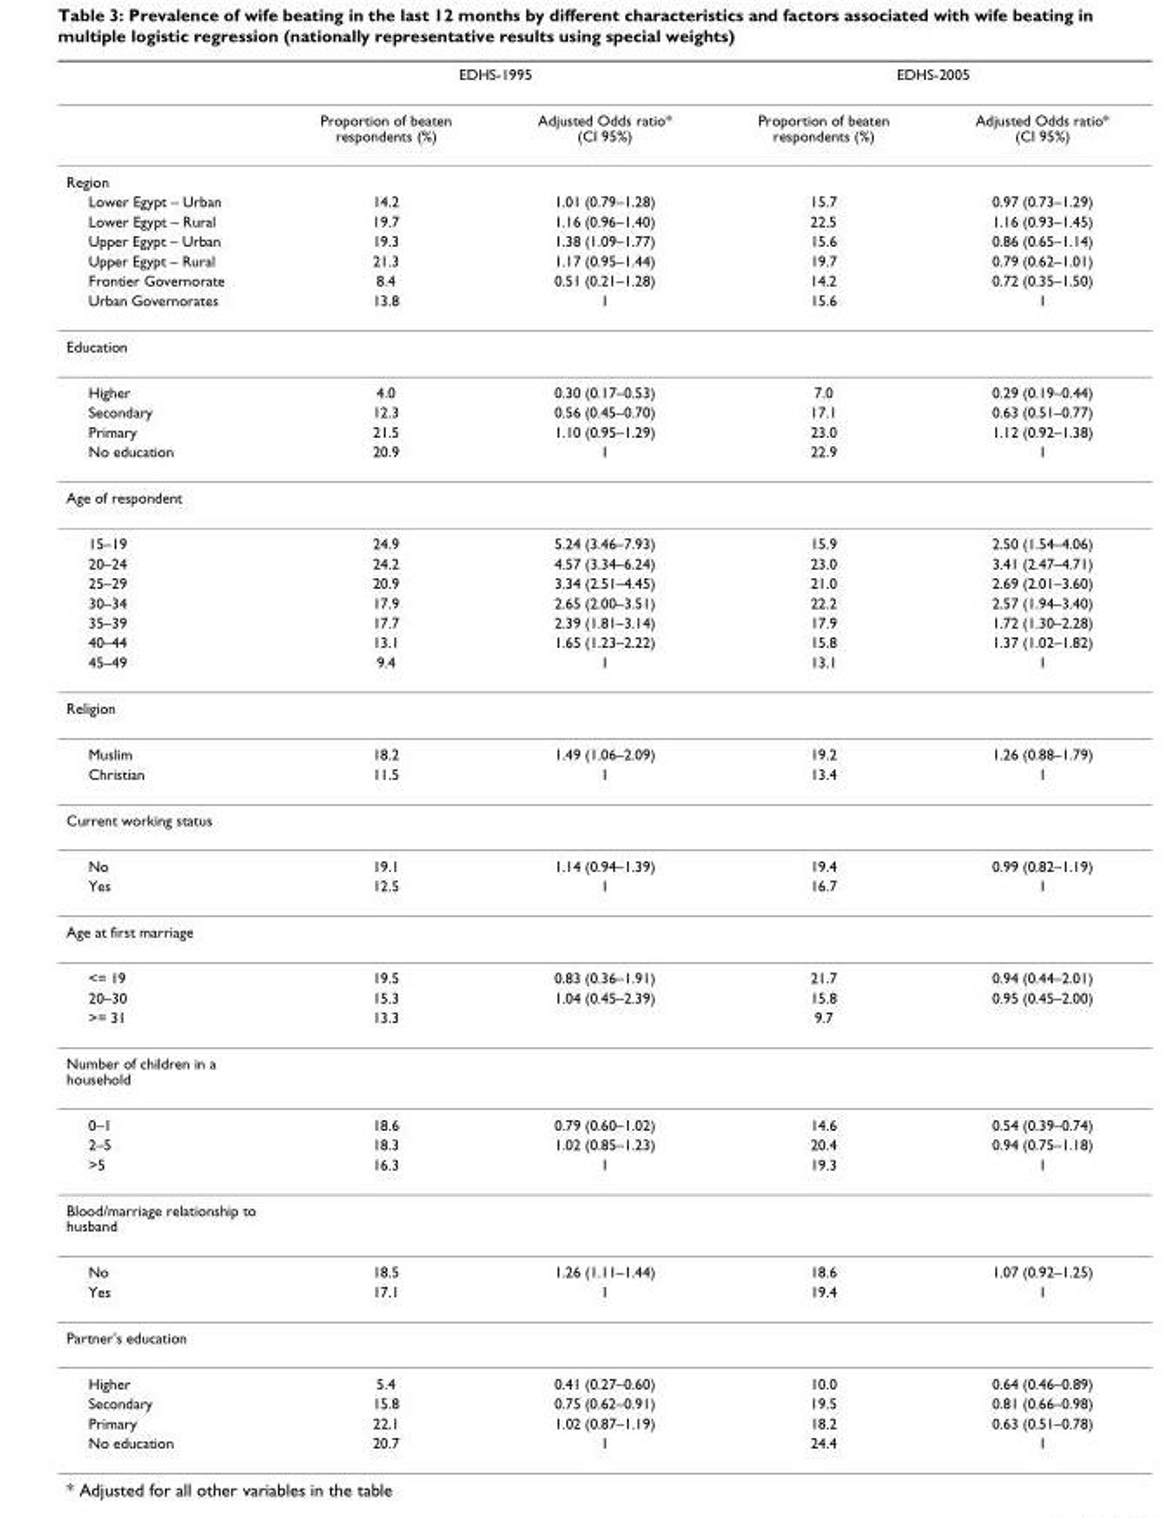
<table><thead><tr><td rowspan="2"></td><td colspan="2">EDHS-1995</td><td colspan="2">EDHS-2005</td></tr><tr><td>Proportion of beaten respondents (%)</td><td>Adjusted Odds ratio* (CI 95%)</td><td>Proportion of beaten respondents (%)</td><td>Adjusted Odds ratio* (CI 95%)</td></tr></thead><tbody><tr><td colspan="5">Region</td></tr><tr><td>Lower Egypt – Urban</td><td>14.2</td><td>1.01 (0.79–1.28)</td><td>15.7</td><td>0.97 (0.73–1.29)</td></tr><tr><td>Lower Egypt – Rural</td><td>19.7</td><td>1.16 (0.96–1.40)</td><td>22.5</td><td>1.16 (0.93–1.45)</td></tr><tr><td>Upper Egypt – Urban</td><td>19.3</td><td>1.38 (1.09–1.77)</td><td>15.6</td><td>0.86 (0.65–1.14)</td></tr><tr><td>Upper Egypt – Rural</td><td>21.3</td><td>1.17 (0.95–1.44)</td><td>19.7</td><td>0.79 (0.62–1.01)</td></tr><tr><td>Frontier Governorate</td><td>8.4</td><td>0.51 (0.21–1.28)</td><td>14.2</td><td>0.72 (0.35–1.50)</td></tr><tr><td>Urban Governorates</td><td>13.8</td><td>1</td><td>15.6</td><td>1</td></tr><tr><td colspan="5">Education</td></tr><tr><td>Higher</td><td>4.0</td><td>0.30 (0.17–0.53)</td><td>7.0</td><td>0.29 (0.19–0.44)</td></tr><tr><td>Secondary</td><td>12.3</td><td>0.56 (0.45–0.70)</td><td>17.1</td><td>0.63 (0.51–0.77)</td></tr><tr><td>Primary</td><td>21.5</td><td>1.10 (0.95–1.29)</td><td>23.0</td><td>1.12 (0.92–1.38)</td></tr><tr><td>No education</td><td>20.9</td><td>1</td><td>22.9</td><td>1</td></tr><tr><td colspan="5">Age of respondent</td></tr><tr><td>15–19</td><td>24.9</td><td>5.24 (3.46–7.93)</td><td>15.9</td><td>2.50 (1.54–4.06)</td></tr><tr><td>20–24</td><td>24.2</td><td>4.57 (3.34–6.24)</td><td>23.0</td><td>3.41 (2.47–4.71)</td></tr><tr><td>25–29</td><td>20.9</td><td>3.34 (2.51–4.45)</td><td>21.0</td><td>2.69 (2.01–3.60)</td></tr><tr><td>30–34</td><td>17.9</td><td>2.65 (2.00–3.51)</td><td>22.2</td><td>2.57 (1.94–3.40)</td></tr><tr><td>35–39</td><td>17.7</td><td>2.39 (1.81–3.14)</td><td>17.9</td><td>1.72 (1.30–2.28)</td></tr><tr><td>40–44</td><td>13.1</td><td>1.65 (1.23–2.22)</td><td>15.8</td><td>1.37 (1.02–1.82)</td></tr><tr><td>45–49</td><td>9.4</td><td>1</td><td>13.1</td><td>1</td></tr><tr><td colspan="5">Religion</td></tr><tr><td>Muslim</td><td>18.2</td><td>1.49 (1.06–2.09)</td><td>19.2</td><td>1.26 (0.88–1.79)</td></tr><tr><td>Christian</td><td>11.5</td><td>1</td><td>13.4</td><td>1</td></tr><tr><td colspan="5">Current working status</td></tr><tr><td>No</td><td>19.1</td><td>1.14 (0.94–1.39)</td><td>19.4</td><td>0.99 (0.82–1.19)</td></tr><tr><td>Yes</td><td>12.5</td><td>1</td><td>16.7</td><td>1</td></tr><tr><td colspan="5">Age at first marriage</td></tr><tr><td>&lt;= 19</td><td>19.5</td><td>0.83 (0.36–1.91)</td><td>21.7</td><td>0.94 (0.44–2.01)</td></tr><tr><td>20–30</td><td>15.3</td><td>1.04 (0.45–2.39)</td><td>15.8</td><td>0.95 (0.45–2.00)</td></tr><tr><td>&gt;= 31</td><td>13.3</td><td></td><td>9.7</td><td></td></tr><tr><td colspan="5">Number of children in a household</td></tr><tr><td>0–1</td><td>18.6</td><td>0.79 (0.60–1.02)</td><td>14.6</td><td>0.54 (0.39–0.74)</td></tr><tr><td>2–5</td><td>18.3</td><td>1.02 (0.85–1.23)</td><td>20.4</td><td>0.94 (0.75–1.18)</td></tr><tr><td>&gt;5</td><td>16.3</td><td>1</td><td>19.3</td><td>1</td></tr><tr><td colspan="5">Blood/marriage relationship to husband</td></tr><tr><td>No</td><td>18.5</td><td>1.26 (1.11–1.44)</td><td>18.6</td><td>1.07 (0.92–1.25)</td></tr><tr><td>Yes</td><td>17.1</td><td>1</td><td>19.4</td><td>1</td></tr><tr><td colspan="5">Partner&#x27;s education</td></tr><tr><td>Higher</td><td>5.4</td><td>0.41 (0.27–0.60)</td><td>10.0</td><td>0.64 (0.46–0.89)</td></tr><tr><td>Secondary</td><td>15.8</td><td>0.75 (0.62–0.91)</td><td>19.5</td><td>0.81 (0.66–0.98)</td></tr><tr><td>Primary</td><td>22.1</td><td>1.02 (0.87–1.19)</td><td>18.2</td><td>0.63 (0.51–0.78)</td></tr><tr><td>No education</td><td>20.7</td><td>1</td><td>24.4</td><td>1</td></tr></tbody></table>